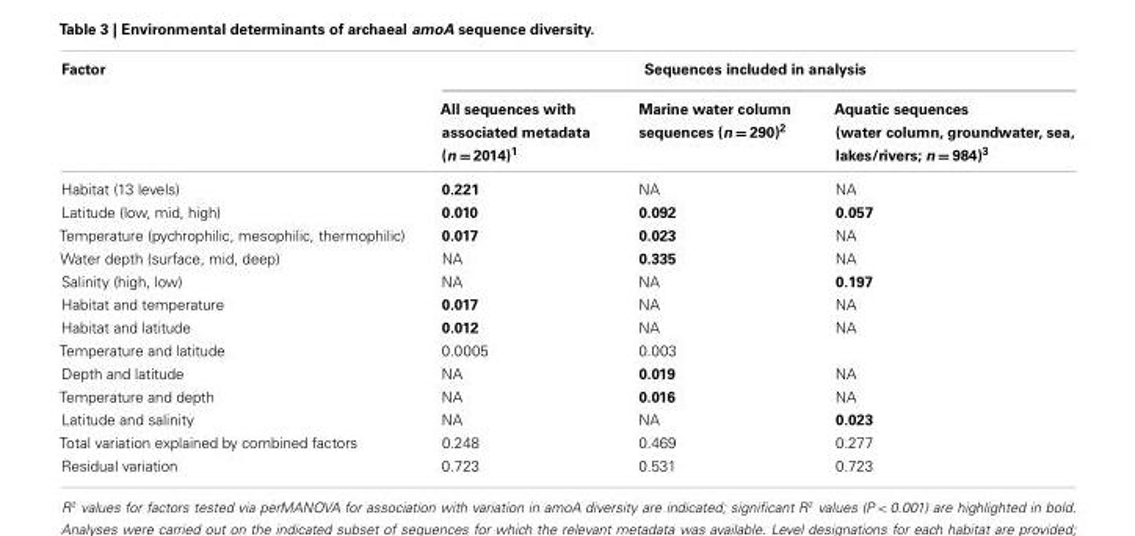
<table><thead><tr><td rowspan="2">Factor</td><td colspan="3">Sequences included in analysis</td></tr><tr><td>All sequences with associated metadata (n = 2014)<sup>1</sup></td><td>Marine water column sequences (n = 290)<sup>2</sup></td><td>Aquatic sequences (water column, groundwater, sea, lakes/rivers; n = 984)<sup>3</sup></td></tr></thead><tbody><tr><td>Habitat (13 levels)</td><td>0.221</td><td>NA</td><td>NA</td></tr><tr><td>Latitude (low, mid, high)</td><td>0.010</td><td>0.092</td><td>0.057</td></tr><tr><td>Temperature (pychrophilic, mesophilic, thermophilic)</td><td>0.017</td><td>0.023</td><td>NA</td></tr><tr><td>Water depth (surface, mid, deep)</td><td>NA</td><td>0.335</td><td>NA</td></tr><tr><td>Salinity (high, low)</td><td>NA</td><td>NA</td><td>0.197</td></tr><tr><td>Habitat and temperature</td><td>0.017</td><td>NA</td><td>NA</td></tr><tr><td>Habitat and latitude</td><td>0.012</td><td>NA</td><td>NA</td></tr><tr><td>Temperature and latitude</td><td>0.0005</td><td>0.003</td><td></td></tr><tr><td>Depth and latitude</td><td>NA</td><td>0.019</td><td>NA</td></tr><tr><td>Temperature and depth</td><td>NA</td><td>0.016</td><td>NA</td></tr><tr><td>Latitude and salinity</td><td>NA</td><td>NA</td><td>0.023</td></tr><tr><td>Total variation explained by combined factors</td><td>0.248</td><td>0.469</td><td>0.277</td></tr><tr><td>Residual variation</td><td>0.723</td><td>0.531</td><td>0.723</td></tr></tbody></table>